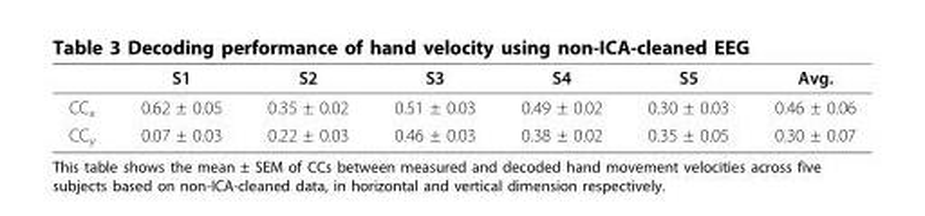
<table><thead><tr><td></td><td>S1</td><td>S2</td><td>S3</td><td>S4</td><td>S5</td><td>Avg.</td></tr></thead><tbody><tr><td>CC<sub>x</sub></td><td>0.62 ± 0.05</td><td>0.35 ± 0.02</td><td>0.51 ± 0.03</td><td>0.49 ± 0.02</td><td>0.30 ± 0.03</td><td>0.46 ± 0.06</td></tr><tr><td>CC<sub>y</sub></td><td>0.07 ± 0.03</td><td>0.22 ± 0.03</td><td>0.46 ± 0.03</td><td>0.38 ± 0.02</td><td>0.35 ± 0.05</td><td>0.30 ± 0.07</td></tr></tbody></table>